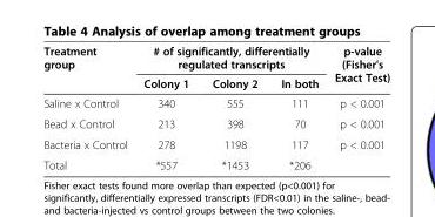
<table><thead><tr><td rowspan="2">Treatment group</td><td colspan="3"># of significantly, differentially regulated transcripts</td><td rowspan="2">p-value (Fisher&#x27;s Exact Test)</td></tr><tr><td>Colony 1</td><td>Colony 2</td><td>In both</td></tr></thead><tbody><tr><td>Saline x Control</td><td>340</td><td>555</td><td>111</td><td>p &lt; 0.001</td></tr><tr><td>Bead x Control</td><td>213</td><td>398</td><td>70</td><td>p &lt; 0.001</td></tr><tr><td>Bacteria x Control</td><td>278</td><td>1198</td><td>117</td><td>p &lt; 0.001</td></tr><tr><td>Total</td><td>*557</td><td>*1453</td><td>*206</td><td></td></tr></tbody></table>